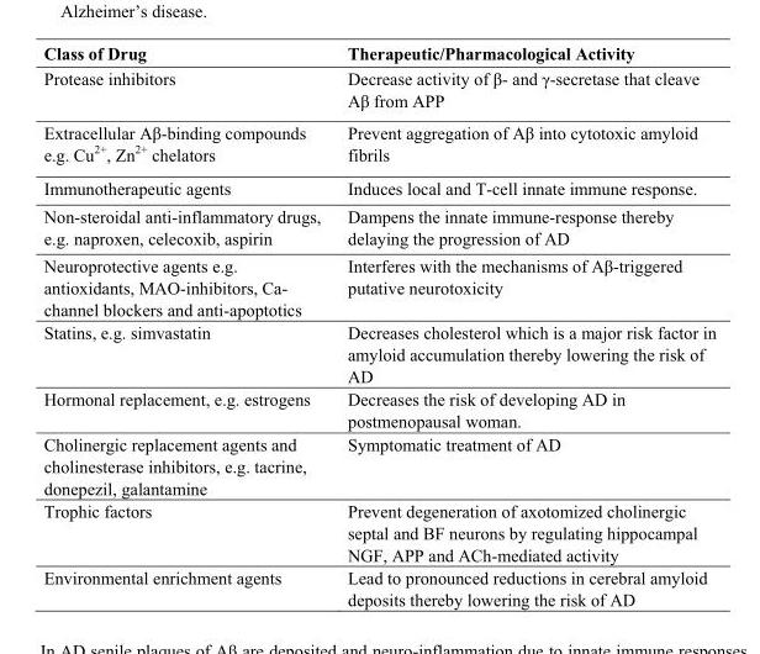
<table><thead><tr><td>Class of Drug</td><td>Therapeutic/Pharmacological Activity</td></tr></thead><tbody><tr><td>Protease inhibitors</td><td>Decrease activity of β- and γ-secretase that cleave Aβ from APP</td></tr><tr><td>Extracellular Aβ-binding compounds e.g. Cu<sup>2+</sup>, Zn<sup>2+</sup> chelators</td><td>Prevent aggregation of Aβ into cytotoxic amyloid fibrils</td></tr><tr><td>Immunotherapeutic agents</td><td>Induces local and T-cell innate immune response.</td></tr><tr><td>Non-steroidal anti-inflammatory drugs, e.g. naproxen, celecoxib, aspirin</td><td>Dampens the innate immune-response thereby delaying the progression of AD</td></tr><tr><td>Neuroprotective agents e.g. antioxidants, MAO-inhibitors, Ca- channel blockers and anti-apoptotics</td><td>Interferes with the mechanisms of Aβ-triggered putative neurotoxicity</td></tr><tr><td>Statins, e.g. simvastatin</td><td>Decreases cholesterol which is a major risk factor in amyloid accumulation thereby lowering the risk of AD</td></tr><tr><td>Hormonal replacement, e.g. estrogens</td><td>Decreases the risk of developing AD in postmenopausal woman.</td></tr><tr><td>Cholinergic replacement agents and cholinesterase inhibitors, e.g. tacrine, donepezil, galantamine</td><td>Symptomatic treatment of AD</td></tr><tr><td>Trophic factors</td><td>Prevent degeneration of axotomized cholinergic septal and BF neurons by regulating hippocampal NGF, APP and ACh-mediated activity</td></tr><tr><td>Environmental enrichment agents</td><td>Lead to pronounced reductions in cerebral amyloid deposits thereby lowering the risk of AD</td></tr></tbody></table>